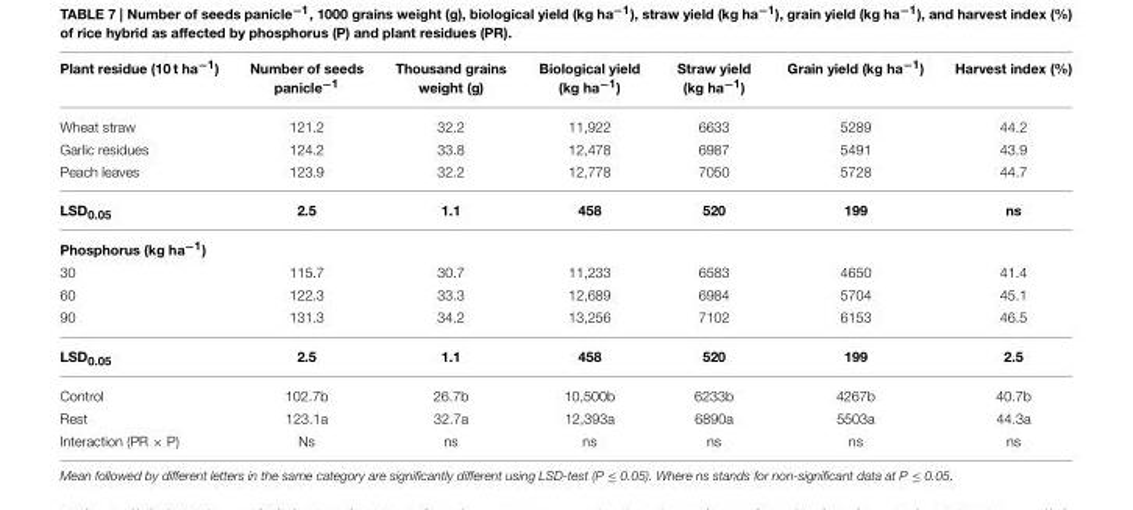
<table><thead><tr><td>Plant residue (10 t ha<sup>−1</sup>)</td><td>Number of seeds panicle<sup>−1</sup></td><td>Thousand grains weight (g)</td><td>Biological yield (kg ha<sup>−1</sup>)</td><td>Straw yield (kg ha<sup>−1</sup>)</td><td>Grain yield (kg ha<sup>−1</sup>)</td><td>Harvest index (%)</td></tr></thead><tbody><tr><td>Wheat straw</td><td>121.2</td><td>32.2</td><td>11,922</td><td>6633</td><td>5289</td><td>44.2</td></tr><tr><td>Garlic residues</td><td>124.2</td><td>33.8</td><td>12,478</td><td>6987</td><td>5491</td><td>43.9</td></tr><tr><td>Peach leaves</td><td>123.9</td><td>32.2</td><td>12,778</td><td>7050</td><td>5728</td><td>44.7</td></tr><tr><td>LSD<sub>0.05</sub></td><td>2.5</td><td>1.1</td><td>458</td><td>520</td><td>199</td><td>ns</td></tr><tr><td colspan="7">Phosphorus (kg ha<sup>−1</sup>)</td></tr><tr><td>30</td><td>115.7</td><td>30.7</td><td>11,233</td><td>6583</td><td>4650</td><td>41.4</td></tr><tr><td>60</td><td>122.3</td><td>33.3</td><td>12,689</td><td>6984</td><td>5704</td><td>45.1</td></tr><tr><td>90</td><td>131.3</td><td>34.2</td><td>13,256</td><td>7102</td><td>6153</td><td>46.5</td></tr><tr><td>LSD<sub>0.05</sub></td><td>2.5</td><td>1.1</td><td>458</td><td>520</td><td>199</td><td>2.5</td></tr><tr><td>Control</td><td>102.7b</td><td>26.7b</td><td>10,500b</td><td>6233b</td><td>4267b</td><td>40.7b</td></tr><tr><td>Rest</td><td>123.1a</td><td>32.7a</td><td>12,393a</td><td>6890a</td><td>5503a</td><td>44.3a</td></tr><tr><td>Interaction (PR × P)</td><td>Ns</td><td>ns</td><td>ns</td><td>ns</td><td>ns</td><td>ns</td></tr></tbody></table>